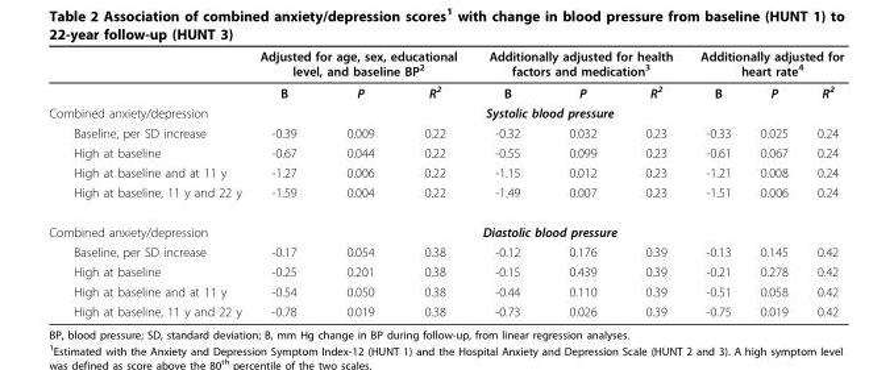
<table><thead><tr><td rowspan="2"></td><td colspan="3">Adjusted for age, sex, educational level, and baseline BP<sup>2</sup></td><td colspan="3">Additionally adjusted for health factors and medication<sup>3</sup></td><td colspan="3">Additionally adjusted for heart rate<sup>4</sup></td></tr><tr><td>B</td><td>P</td><td>R<sup>2</sup></td><td>B</td><td>P</td><td>R<sup>2</sup></td><td>B</td><td>P</td><td>R<sup>2</sup></td></tr></thead><tbody><tr><td>Combined anxiety/depression</td><td colspan="9">Systolic blood pressure</td></tr><tr><td>Baseline, per SD increase</td><td>-0.39</td><td>0.009</td><td>0.22</td><td>-0.32</td><td>0.032</td><td>0.23</td><td>-0.33</td><td>0.025</td><td>0.24</td></tr><tr><td>High at baseline</td><td>-0.67</td><td>0.044</td><td>0.22</td><td>-0.55</td><td>0.099</td><td>0.23</td><td>-0.61</td><td>0.067</td><td>0.24</td></tr><tr><td>High at baseline and at 11 y</td><td>-1.27</td><td>0.006</td><td>0.22</td><td>-1.15</td><td>0.012</td><td>0.23</td><td>-1.21</td><td>0.008</td><td>0.24</td></tr><tr><td>High at baseline, 11 y and 22 y</td><td>-1.59</td><td>0.004</td><td>0.22</td><td>-1.49</td><td>0.007</td><td>0.23</td><td>-1.51</td><td>0.006</td><td>0.24</td></tr><tr><td>Combined anxiety/depression</td><td colspan="9">Diastolic blood pressure</td></tr><tr><td>Baseline, per SD increase</td><td>-0.17</td><td>0.054</td><td>0.38</td><td>-0.12</td><td>0.176</td><td>0.39</td><td>-0.13</td><td>0.145</td><td>0.42</td></tr><tr><td>High at baseline</td><td>-0.25</td><td>0.201</td><td>0.38</td><td>-0.15</td><td>0.439</td><td>0.39</td><td>-0.21</td><td>0.278</td><td>0.42</td></tr><tr><td>High at baseline and at 11 y</td><td>-0.54</td><td>0.050</td><td>0.38</td><td>-0.44</td><td>0.110</td><td>0.39</td><td>-0.51</td><td>0.058</td><td>0.42</td></tr><tr><td>High at baseline, 11 y and 22 y</td><td>-0.78</td><td>0.019</td><td>0.38</td><td>-0.73</td><td>0.026</td><td>0.39</td><td>-0.75</td><td>0.019</td><td>0.42</td></tr></tbody></table>